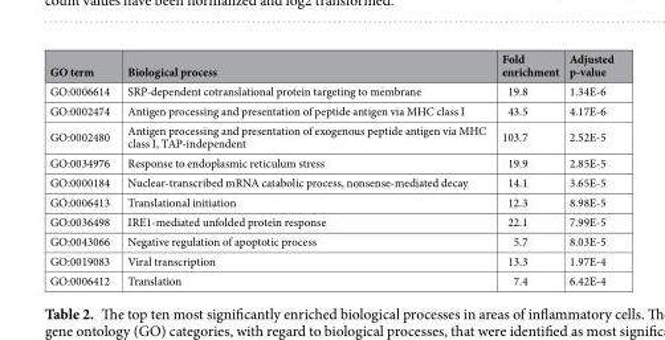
<table><thead><tr><td>GO term</td><td>Biological process</td><td>Fold enrichment</td><td>Adjusted p-value</td></tr></thead><tbody><tr><td>GO:0006614</td><td>SRP-dependent cotranslational protein targeting to membrane</td><td>19.8</td><td>1.34E-6</td></tr><tr><td>GO:0002474</td><td>Antigen processing and presentation of peptide antigen via MHC class I</td><td>43.5</td><td>4.17E-6</td></tr><tr><td>GO:0002480</td><td>Antigen processing and presentation of exogenous peptide antigen via MHC class I, TAP-independent</td><td>103.7</td><td>2.52E-5</td></tr><tr><td>GO:0034976</td><td>Response to endoplasmic reticulum stress</td><td>19.9</td><td>2.85E-5</td></tr><tr><td>GO:0000184</td><td>Nuclear-transcribed mRNA catabolic process, nonsense-mediated decay</td><td>14.1</td><td>3.65E-5</td></tr><tr><td>GO:0006413</td><td>Translational initiation</td><td>12.3</td><td>8.98E-5</td></tr><tr><td>GO:0036498</td><td>IRE1-mediated unfolded protein response</td><td>22.1</td><td>7.99E-5</td></tr><tr><td>GO:0043066</td><td>Negative regulation of apoptotic process</td><td>5.7</td><td>8.03E-5</td></tr><tr><td>GO:0019083</td><td>Viral transcription</td><td>13.3</td><td>1.97E-4</td></tr><tr><td>GO:0006412</td><td>Translation</td><td>7.4</td><td>6.42E-4</td></tr></tbody></table>